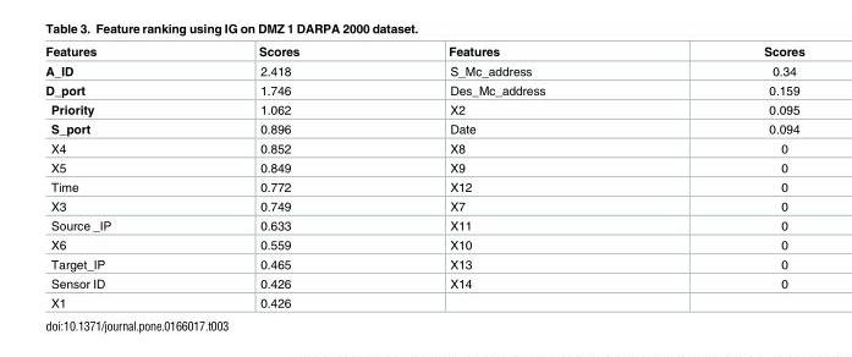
<table><thead><tr><td>Features</td><td>Scores</td><td>Features</td><td>Scores</td></tr></thead><tbody><tr><td>A_ID</td><td>2.418</td><td>S_Mc_address</td><td>0.34</td></tr><tr><td>D_port</td><td>1.746</td><td>Des_Mc_address</td><td>0.159</td></tr><tr><td>Priority</td><td>1.062</td><td>X2</td><td>0.095</td></tr><tr><td>S_port</td><td>0.896</td><td>Date</td><td>0.094</td></tr><tr><td>X4</td><td>0.852</td><td>X8</td><td>0</td></tr><tr><td>X5</td><td>0.849</td><td>X9</td><td>0</td></tr><tr><td>Time</td><td>0.772</td><td>X12</td><td>0</td></tr><tr><td>X3</td><td>0.749</td><td>X7</td><td>0</td></tr><tr><td>Source _IP</td><td>0.633</td><td>X11</td><td>0</td></tr><tr><td>X6</td><td>0.559</td><td>X10</td><td>0</td></tr><tr><td>Target_IP</td><td>0.465</td><td>X13</td><td>0</td></tr><tr><td>Sensor ID</td><td>0.426</td><td>X14</td><td>0</td></tr><tr><td>X1</td><td>0.426</td><td></td><td></td></tr></tbody></table>